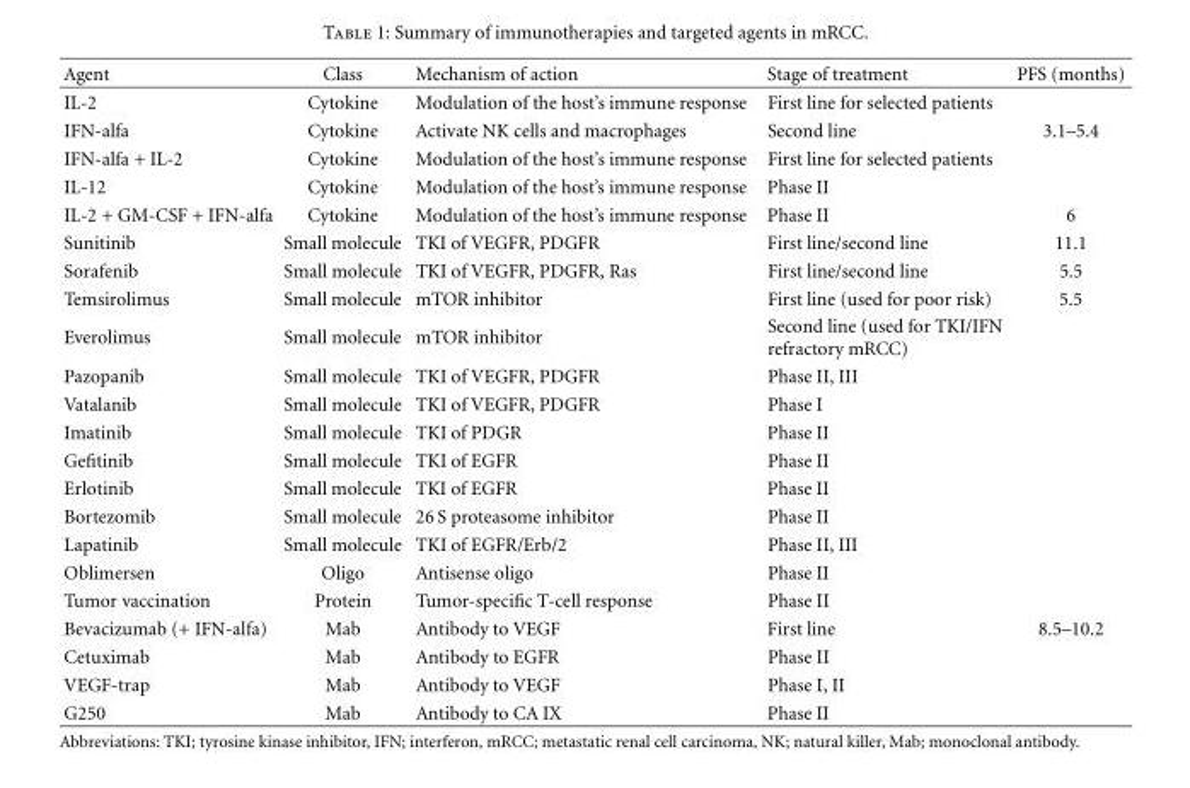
<table><thead><tr><td>Agent</td><td>Class</td><td>Mechanism of action</td><td>Stage of treatment</td><td>PFS (months)</td></tr></thead><tbody><tr><td>IL-2</td><td>Cytokine</td><td>Modulation of the host’s immune response</td><td>First line for selected patients</td><td></td></tr><tr><td>IFN-alfa</td><td>Cytokine</td><td>Activate NK cells and macrophages</td><td>Second line</td><td>3.1–5.4</td></tr><tr><td>IFN-alfa + IL-2</td><td>Cytokine</td><td>Modulation of the host’s immune response</td><td>First line for selected patients</td><td></td></tr><tr><td>IL-12</td><td>Cytokine</td><td>Modulation of the host’s immune response</td><td>Phase II</td><td></td></tr><tr><td>IL-2 + GM-CSF + IFN-alfa</td><td>Cytokine</td><td>Modulation of the host’s immune response</td><td>Phase II</td><td>6</td></tr><tr><td>Sunitinib</td><td>Small molecule</td><td>TKI of VEGFR, PDGFR</td><td>First line/second line</td><td>11.1</td></tr><tr><td>Sorafenib</td><td>Small molecule</td><td>TKI of VEGFR, PDGFR, Ras</td><td>First line/second line</td><td>5.5</td></tr><tr><td>Temsirolimus</td><td>Small molecule</td><td>mTOR inhibitor</td><td>First line (used for poor risk)</td><td>5.5</td></tr><tr><td>Everolimus</td><td>Small molecule</td><td>mTOR inhibitor</td><td>Second line (used for TKI/IFN refractory mRCC)</td><td></td></tr><tr><td>Pazopanib</td><td>Small molecule</td><td>TKI of VEGFR, PDGFR</td><td>Phase II, III</td><td></td></tr><tr><td>Vatalanib</td><td>Small molecule</td><td>TKI of VEGFR, PDGFR</td><td>Phase I</td><td></td></tr><tr><td>Imatinib</td><td>Small molecule</td><td>TKI of PDGR</td><td>Phase II</td><td></td></tr><tr><td>Gefitinib</td><td>Small molecule</td><td>TKI of EGFR</td><td>Phase II</td><td></td></tr><tr><td>Erlotinib</td><td>Small molecule</td><td>TKI of EGFR</td><td>Phase II</td><td></td></tr><tr><td>Bortezomib</td><td>Small molecule</td><td>26 S proteasome inhibitor</td><td>Phase II</td><td></td></tr><tr><td>Lapatinib</td><td>Small molecule</td><td>TKI of EGFR/Erb/2</td><td>Phase II, III</td><td></td></tr><tr><td>Oblimersen</td><td>Oligo</td><td>Antisense oligo</td><td>Phase II</td><td></td></tr><tr><td>Tumor vaccination</td><td>Protein</td><td>Tumor-specific T-cell response</td><td>Phase II</td><td></td></tr><tr><td>Bevacizumab (+ IFN-alfa)</td><td>Mab</td><td>Antibody to VEGF</td><td>First line</td><td>8.5–10.2</td></tr><tr><td>Cetuximab</td><td>Mab</td><td>Antibody to EGFR</td><td>Phase II</td><td></td></tr><tr><td>VEGF-trap</td><td>Mab</td><td>Antibody to VEGF</td><td>Phase I, II</td><td></td></tr><tr><td>G250</td><td>Mab</td><td>Antibody to CA IX</td><td>Phase II</td><td></td></tr></tbody></table>